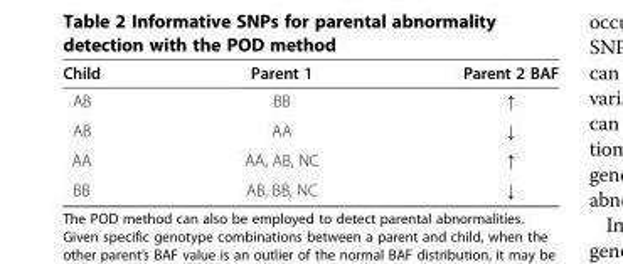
<table><thead><tr><td>Child</td><td>Parent 1</td><td>Parent 2 BAF</td></tr></thead><tbody><tr><td>AB</td><td>BB</td><td>↑</td></tr><tr><td>AB</td><td>AA</td><td>↓</td></tr><tr><td>AA</td><td>AA, AB, NC</td><td>↑</td></tr><tr><td>BB</td><td>AB, BB, NC</td><td>↓</td></tr></tbody></table>